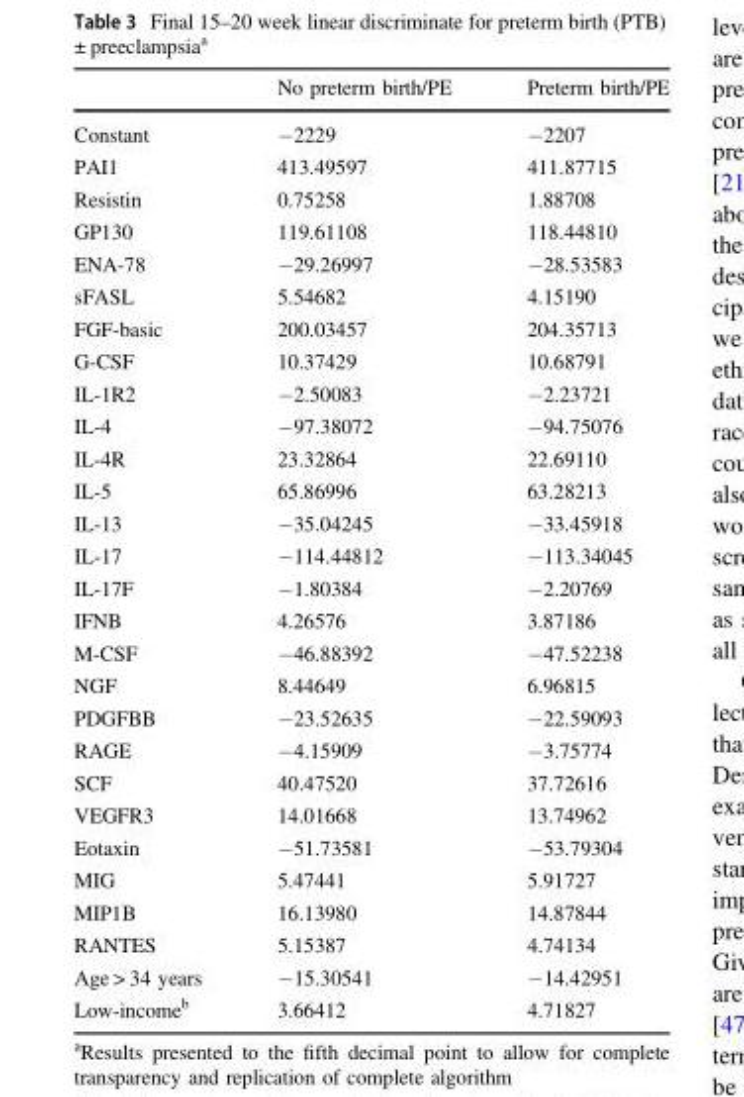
<table><thead><tr><td></td><td>No preterm birth/PE</td><td>Preterm birth/PE</td></tr></thead><tbody><tr><td>Constant</td><td>−2229</td><td>−2207</td></tr><tr><td>PAI1</td><td>413.49597</td><td>411.87715</td></tr><tr><td>Resistin</td><td>0.75258</td><td>1.88708</td></tr><tr><td>GP130</td><td>119.61108</td><td>118.44810</td></tr><tr><td>ENA-78</td><td>−29.26997</td><td>−28.53583</td></tr><tr><td>sFASL</td><td>5.54682</td><td>4.15190</td></tr><tr><td>FGF-basic</td><td>200.03457</td><td>204.35713</td></tr><tr><td>G-CSF</td><td>10.37429</td><td>10.68791</td></tr><tr><td>IL-1R2</td><td>−2.50083</td><td>−2.23721</td></tr><tr><td>IL-4</td><td>−97.38072</td><td>−94.75076</td></tr><tr><td>IL-4R</td><td>23.32864</td><td>22.69110</td></tr><tr><td>IL-5</td><td>65.86996</td><td>63.28213</td></tr><tr><td>IL-13</td><td>−35.04245</td><td>−33.45918</td></tr><tr><td>IL-17</td><td>−114.44812</td><td>−113.34045</td></tr><tr><td>IL-17F</td><td>−1.80384</td><td>−2.20769</td></tr><tr><td>IFNB</td><td>4.26576</td><td>3.87186</td></tr><tr><td>M-CSF</td><td>−46.88392</td><td>−47.52238</td></tr><tr><td>NGF</td><td>8.44649</td><td>6.96815</td></tr><tr><td>PDGFBB</td><td>−23.52635</td><td>−22.59093</td></tr><tr><td>RAGE</td><td>−4.15909</td><td>−3.75774</td></tr><tr><td>SCF</td><td>40.47520</td><td>37.72616</td></tr><tr><td>VEGFR3</td><td>14.01668</td><td>13.74962</td></tr><tr><td>Eotaxin</td><td>−51.73581</td><td>−53.79304</td></tr><tr><td>MIG</td><td>5.47441</td><td>5.91727</td></tr><tr><td>MIP1B</td><td>16.13980</td><td>14.87844</td></tr><tr><td>RANTES</td><td>5.15387</td><td>4.74134</td></tr><tr><td>Age &gt; 34 years</td><td>−15.30541</td><td>−14.42951</td></tr><tr><td>Low-income<sup>b</sup></td><td>3.66412</td><td>4.71827</td></tr></tbody></table>